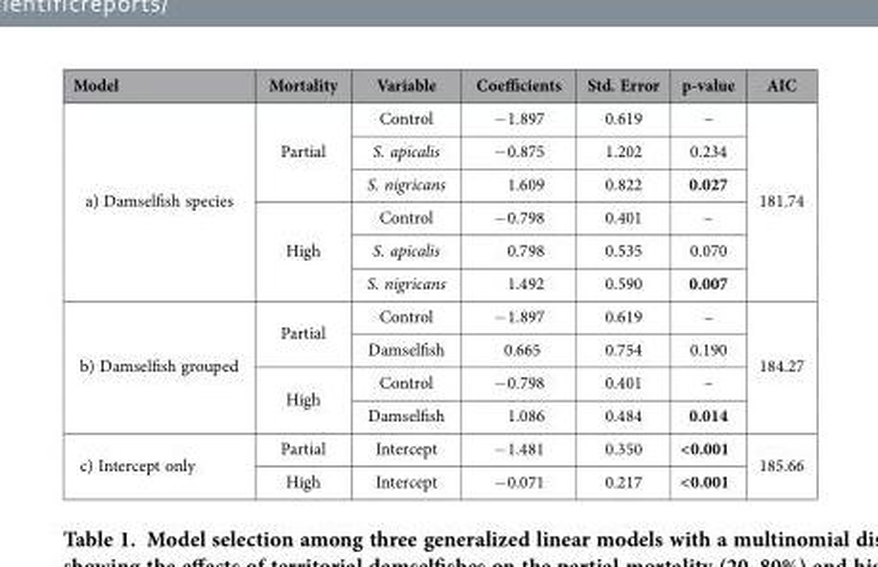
<table><thead><tr><td>Model</td><td>Mortality</td><td>Variable</td><td>Coefficients</td><td>Std. Error</td><td>p-value</td><td>AIC</td></tr></thead><tbody><tr><td rowspan="6">a) Damselfish species</td><td rowspan="3">Partial</td><td>Control</td><td>− 1.897</td><td>0.619</td><td>–</td><td rowspan="6">181.74</td></tr><tr><td>S. apicalis</td><td>− 0.875</td><td>1.202</td><td>0.234</td></tr><tr><td>S. nigricans</td><td>1.609</td><td>0.822</td><td>0.027</td></tr><tr><td rowspan="3">High</td><td>Control</td><td>− 0.798</td><td>0.401</td><td>–</td></tr><tr><td>S. apicalis</td><td>0.798</td><td>0.535</td><td>0.070</td></tr><tr><td>S. nigricans</td><td>1.492</td><td>0.590</td><td>0.007</td></tr><tr><td rowspan="4">b) Damselfish grouped</td><td rowspan="2">Partial</td><td>Control</td><td>− 1.897</td><td>0.619</td><td>–</td><td rowspan="4">184.27</td></tr><tr><td>Damselfish</td><td>0.665</td><td>0.754</td><td>0.190</td></tr><tr><td rowspan="2">High</td><td>Control</td><td>− 0.798</td><td>0.401</td><td>–</td></tr><tr><td>Damselfish</td><td>1.086</td><td>0.484</td><td>0.014</td></tr><tr><td rowspan="2">c) Intercept only</td><td>Partial</td><td>Intercept</td><td>− 1.481</td><td>0.350</td><td>&lt; 0.001</td><td rowspan="2">185.66</td></tr><tr><td>High</td><td>Intercept</td><td>− 0.071</td><td>0.217</td><td>&lt; 0.001</td></tr></tbody></table>